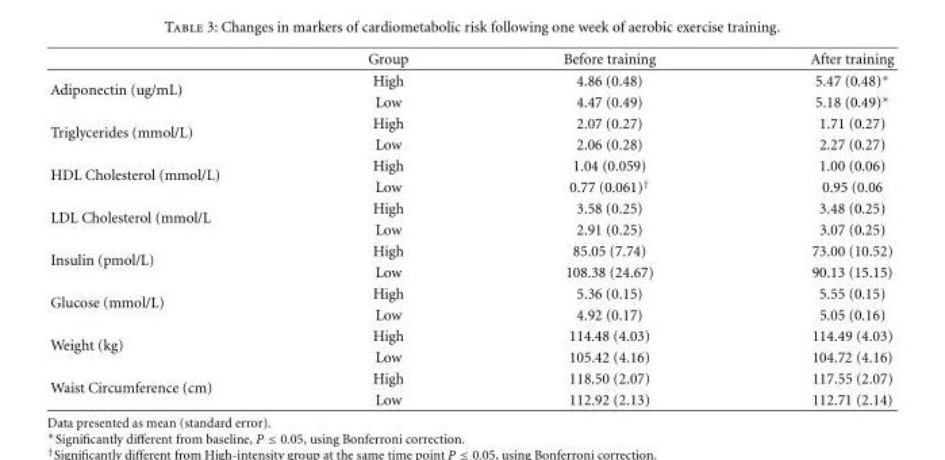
<table><thead><tr><td></td><td>Group</td><td>Before training</td><td>After training</td></tr></thead><tbody><tr><td rowspan="2">Adiponectin (ug/mL)</td><td>High</td><td>4.86 (0.48)</td><td>5.47 (0.48)∗</td></tr><tr><td>Low</td><td>4.47 (0.49)</td><td>5.18 (0.49)∗</td></tr><tr><td rowspan="2">Triglycerides (mmol/L)</td><td>High</td><td>2.07 (0.27)</td><td>1.71 (0.27)</td></tr><tr><td>Low</td><td>2.06 (0.28)</td><td>2.27 (0.27)</td></tr><tr><td rowspan="2">HDL Cholesterol (mmol/L)</td><td>High</td><td>1.04 (0.059)</td><td>1.00 (0.06)</td></tr><tr><td>Low</td><td>0.77 (0.061)<sup>†</sup></td><td>0.95 (0.06</td></tr><tr><td rowspan="2">LDL Cholesterol (mmol/L</td><td>High</td><td>3.58 (0.25)</td><td>3.48 (0.25)</td></tr><tr><td>Low</td><td>2.91 (0.25)</td><td>3.07 (0.25)</td></tr><tr><td rowspan="2">Insulin (pmol/L)</td><td>High</td><td>85.05 (7.74)</td><td>73.00 (10.52)</td></tr><tr><td>Low</td><td>108.38 (24.67)</td><td>90.13 (15.15)</td></tr><tr><td rowspan="2">Glucose (mmol/L)</td><td>High</td><td>5.36 (0.15)</td><td>5.55 (0.15)</td></tr><tr><td>Low</td><td>4.92 (0.17)</td><td>5.05 (0.16)</td></tr><tr><td rowspan="2">Weight (kg)</td><td>High</td><td>114.48 (4.03)</td><td>114.49 (4.03)</td></tr><tr><td>Low</td><td>105.42 (4.16)</td><td>104.72 (4.16)</td></tr><tr><td rowspan="2">Waist Circumference (cm)</td><td>High</td><td>118.50 (2.07)</td><td>117.55 (2.07)</td></tr><tr><td>Low</td><td>112.92 (2.13)</td><td>112.71 (2.14)</td></tr></tbody></table>